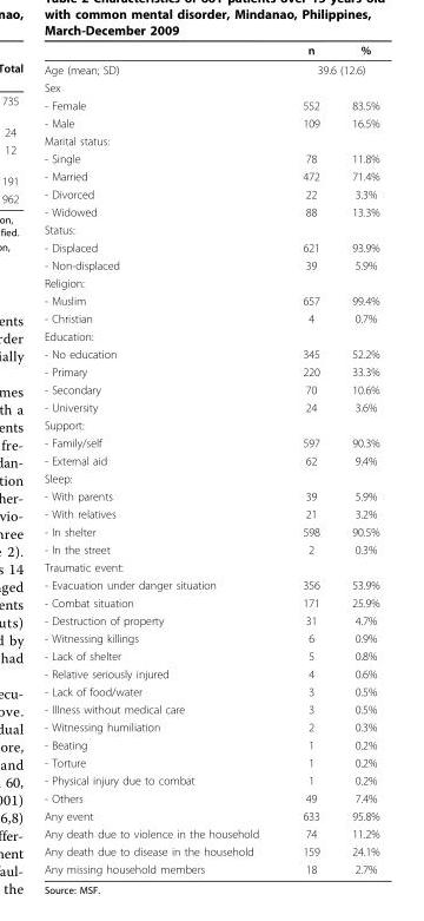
<table><thead><tr><td></td><td>n</td><td>%</td></tr></thead><tbody><tr><td>Age (mean; SD)</td><td colspan="2">39.6 (12.6)</td></tr><tr><td colspan="3">Sex</td></tr><tr><td>- Female</td><td>552</td><td>83.5%</td></tr><tr><td>- Male</td><td>109</td><td>16.5%</td></tr><tr><td colspan="3">Marital status:</td></tr><tr><td>- Single</td><td>78</td><td>11.8%</td></tr><tr><td>- Married</td><td>472</td><td>71.4%</td></tr><tr><td>- Divorced</td><td>22</td><td>3.3%</td></tr><tr><td>- Widowed</td><td>88</td><td>13.3%</td></tr><tr><td colspan="3">Status:</td></tr><tr><td>- Displaced</td><td>621</td><td>93.9%</td></tr><tr><td>- Non-displaced</td><td>39</td><td>5.9%</td></tr><tr><td colspan="3">Religion:</td></tr><tr><td>- Muslim</td><td>657</td><td>99.4%</td></tr><tr><td>- Christian</td><td>4</td><td>0.7%</td></tr><tr><td colspan="3">Education:</td></tr><tr><td>- No education</td><td>345</td><td>52.2%</td></tr><tr><td>- Primary</td><td>220</td><td>33.3%</td></tr><tr><td>- Secondary</td><td>70</td><td>10.6%</td></tr><tr><td>- University</td><td>24</td><td>3.6%</td></tr><tr><td colspan="3">Support:</td></tr><tr><td>- Family/self</td><td>597</td><td>90.3%</td></tr><tr><td>- External aid</td><td>62</td><td>9.4%</td></tr><tr><td colspan="3">Sleep:</td></tr><tr><td>- With parents</td><td>39</td><td>5.9%</td></tr><tr><td>- With relatives</td><td>21</td><td>3.2%</td></tr><tr><td>- In shelter</td><td>598</td><td>90.5%</td></tr><tr><td>- In the street</td><td>2</td><td>0.3%</td></tr><tr><td colspan="3">Traumatic event:</td></tr><tr><td>- Evacuation under danger situation</td><td>356</td><td>53.9%</td></tr><tr><td>- Combat situation</td><td>171</td><td>25.9%</td></tr><tr><td>- Destruction of property</td><td>31</td><td>4.7%</td></tr><tr><td>- Witnessing killings</td><td>6</td><td>0.9%</td></tr><tr><td>- Lack of shelter</td><td>5</td><td>0.8%</td></tr><tr><td>- Relative seriously injured</td><td>4</td><td>0.6%</td></tr><tr><td>- Lack of food/water</td><td>3</td><td>0.5%</td></tr><tr><td>- Illness without medical care</td><td>3</td><td>0.5%</td></tr><tr><td>- Witnessing humiliation</td><td>2</td><td>0.3%</td></tr><tr><td>- Beating</td><td>1</td><td>0.2%</td></tr><tr><td>- Torture</td><td>1</td><td>0.2%</td></tr><tr><td>- Physical injury due to combat</td><td>1</td><td>0.2%</td></tr><tr><td>- Others</td><td>49</td><td>7.4%</td></tr><tr><td>Any event</td><td>633</td><td>95.8%</td></tr><tr><td>Any death due to violence in the household</td><td>74</td><td>11.2%</td></tr><tr><td>Any death due to disease in the household</td><td>159</td><td>24.1%</td></tr><tr><td>Any missing household members</td><td>18</td><td>2.7%</td></tr></tbody></table>